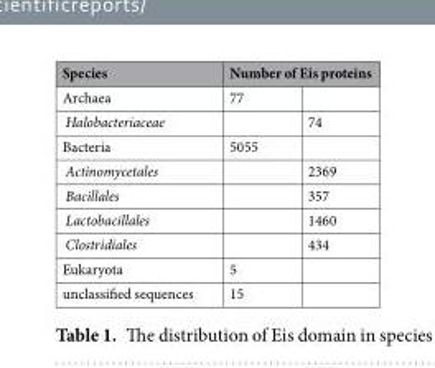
<table><thead><tr><td rowspan="2">Species Archaea</td><td colspan="2">Number of Eis proteins</td></tr><tr><td>77</td><td></td></tr></thead><tbody><tr><td>Halobacteriaceae</td><td></td><td>74</td></tr><tr><td>Bacteria</td><td>5055</td><td></td></tr><tr><td>Actinomycetales</td><td></td><td>2369</td></tr><tr><td>Bacillales</td><td></td><td>357</td></tr><tr><td>Lactobacillales</td><td></td><td>1460</td></tr><tr><td>Clostridiales</td><td></td><td>434</td></tr><tr><td>Eukaryota</td><td>5</td><td></td></tr><tr><td>unclassified sequences</td><td>15</td><td></td></tr></tbody></table>